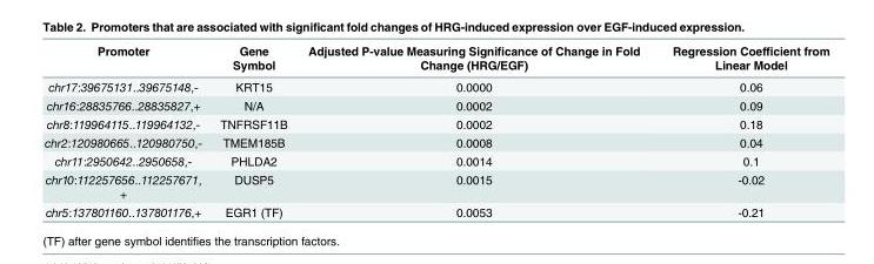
<table><thead><tr><td>Promoter</td><td>Gene Symbol</td><td>Adjusted P-value Measuring Significance of Change in Fold Change (HRG/EGF)</td><td>Regression Coefficient from Linear Model</td></tr></thead><tbody><tr><td>chr17:39675131..39675148,-</td><td>KRT15</td><td>0.0000</td><td>0.06</td></tr><tr><td>chr16:28835766..28835827,+</td><td>N/A</td><td>0.0002</td><td>0.09</td></tr><tr><td>chr8:119964115..119964132,-</td><td>TNFRSF11B</td><td>0.0002</td><td>0.18</td></tr><tr><td>chr2:120980665..120980750,-</td><td>TMEM185B</td><td>0.0008</td><td>0.04</td></tr><tr><td>chr11:2950642..2950658,-</td><td>PHLDA2</td><td>0.0014</td><td>0.1</td></tr><tr><td>chr10:112257656..112257671, +</td><td>DUSP5</td><td>0.0015</td><td>-0.02</td></tr><tr><td>chr5:137801160..137801176,+</td><td>EGR1 (TF)</td><td>0.0053</td><td>-0.21</td></tr></tbody></table>